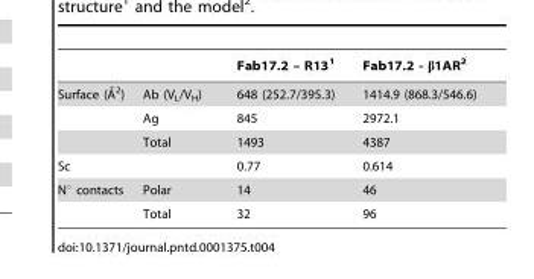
<table><thead><tr><td></td><td></td><td>Fab17.2 – R13<sup>1</sup></td><td>Fab17.2 - β1AR<sup>2</sup></td></tr></thead><tbody><tr><td rowspan="3">Surface (A˚ 2)</td><td>Ab (V<sub>L</sub>/V<sub>H</sub>)</td><td>648 (252.7/395.3)</td><td>1414.9 (868.3/546.6)</td></tr><tr><td>Ag</td><td>845</td><td>2972.1</td></tr><tr><td>Total</td><td>1493</td><td>4387</td></tr><tr><td>Sc</td><td></td><td>0.77</td><td>0.614</td></tr><tr><td rowspan="2">N° contacts</td><td>Polar</td><td>14</td><td>46</td></tr><tr><td>Total</td><td>32</td><td>96</td></tr></tbody></table>